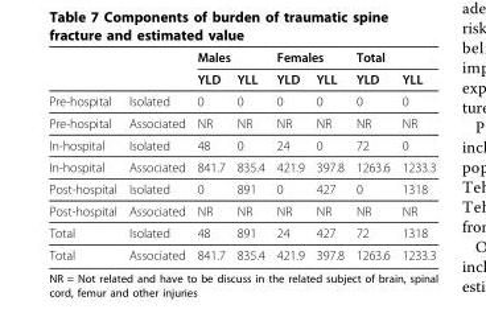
<table><thead><tr><td rowspan="2"></td><td rowspan="2"></td><td colspan="2">Males</td><td colspan="2">Females</td><td colspan="2">Total</td></tr><tr><td>YLD</td><td>YLL</td><td>YLD</td><td>YLL</td><td>YLD</td><td>YLL</td></tr></thead><tbody><tr><td>Pre-hospital</td><td>Isolated</td><td>0</td><td>0</td><td>0</td><td>0</td><td>0</td><td>0</td></tr><tr><td>Pre-hospital</td><td>Associated</td><td>NR</td><td>NR</td><td>NR</td><td>NR</td><td>NR</td><td>NR</td></tr><tr><td>In-hospital</td><td>Isolated</td><td>48</td><td>0</td><td>24</td><td>0</td><td>72</td><td>0</td></tr><tr><td>In-hospital</td><td>Associated</td><td>841.7</td><td>835.4</td><td>421.9</td><td>397.8</td><td>1263.6</td><td>1233.3</td></tr><tr><td>Post-hospital</td><td>Isolated</td><td>0</td><td>891</td><td>0</td><td>427</td><td>0</td><td>1318</td></tr><tr><td>Post-hospital</td><td>Associated</td><td>NR</td><td>NR</td><td>NR</td><td>NR</td><td>NR</td><td>NR</td></tr><tr><td>Total</td><td>Isolated</td><td>48</td><td>891</td><td>24</td><td>427</td><td>72</td><td>1318</td></tr><tr><td>Total</td><td>Associated</td><td>841.7</td><td>835.4</td><td>421.9</td><td>397.8</td><td>1263.6</td><td>1233.3</td></tr></tbody></table>